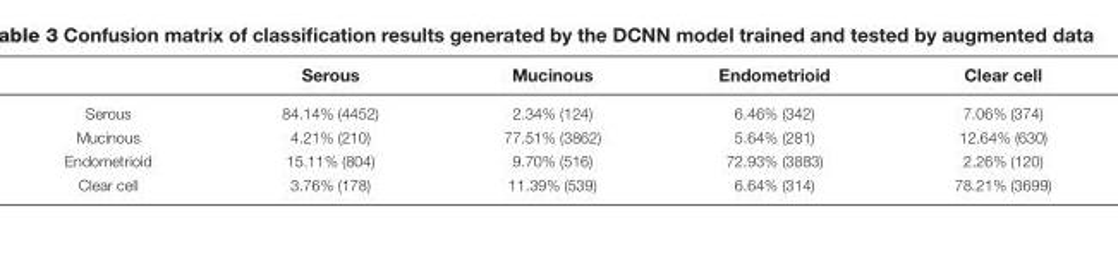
<table><thead><tr><td></td><td>Serous</td><td>Mucinous</td><td>Endometrioid</td><td>Clear cell</td></tr></thead><tbody><tr><td>Serous</td><td>84.14% (4452)</td><td>2.34% (124)</td><td>6.46% (342)</td><td>7.06% (374)</td></tr><tr><td>Mucinous</td><td>4.21% (210)</td><td>77.51% (3862)</td><td>5.64% (281)</td><td>12.64% (630)</td></tr><tr><td>Endometrioid</td><td>15.11% (804)</td><td>9.70% (516)</td><td>72.93% (3883)</td><td>2.26% (120)</td></tr><tr><td>Clear cell</td><td>3.76% (178)</td><td>11.39% (539)</td><td>6.64% (314)</td><td>78.21% (3699)</td></tr></tbody></table>